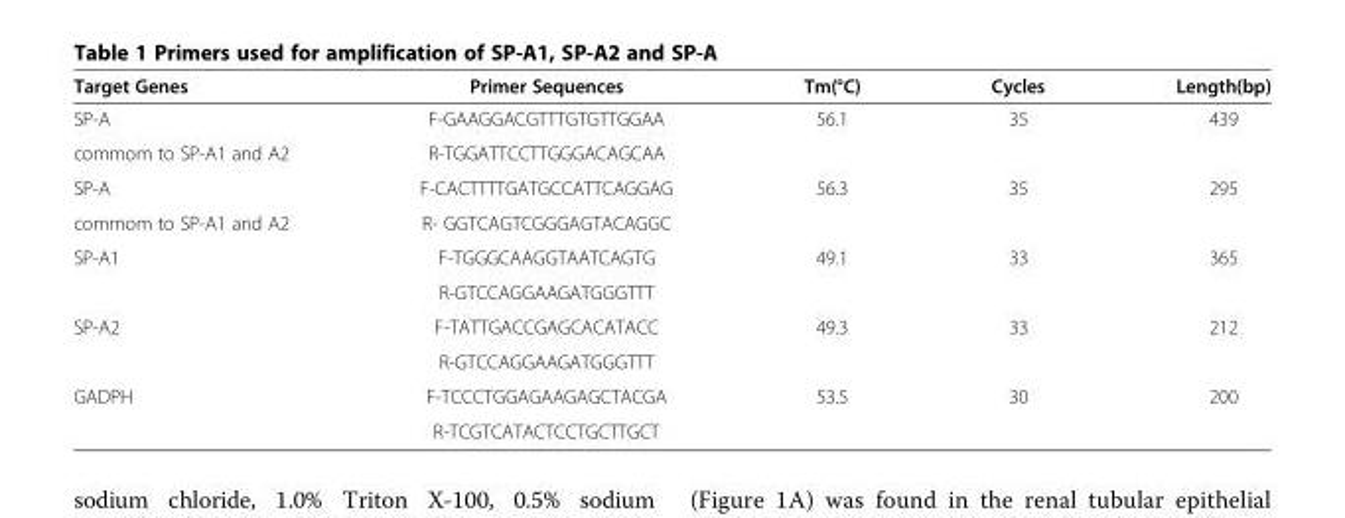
<table><thead><tr><td>Target Genes</td><td>Primer Sequences</td><td>Tm(°C)</td><td>Cycles</td><td>Length(bp)</td></tr></thead><tbody><tr><td>SP-A</td><td>F-GAAGGACGTTTGTGTTGGAA</td><td>56.1</td><td>35</td><td>439</td></tr><tr><td>commom to SP-A1 and A2</td><td>R-TGGATTCCTTGGGACAGCAA</td><td></td><td></td><td></td></tr><tr><td>SP-A</td><td>F-CACTTTTGATGCCATTCAGGAG</td><td>56.3</td><td>35</td><td>295</td></tr><tr><td>commom to SP-A1 and A2</td><td>R- GGTCAGTCGGGAGTACAGGC</td><td></td><td></td><td></td></tr><tr><td rowspan="2">SP-A1</td><td>F-TGGGCAAGGTAATCAGTG</td><td>49.1</td><td>33</td><td>365</td></tr><tr><td>R-GTCCAGGAAGATGGGTTT</td><td></td><td></td><td></td></tr><tr><td rowspan="2">SP-A2</td><td>F-TATTGACCGAGCACATACC</td><td>49.3</td><td>33</td><td>212</td></tr><tr><td>R-GTCCAGGAAGATGGGTTT</td><td></td><td></td><td></td></tr><tr><td rowspan="2">GADPH</td><td>F-TCCCTGGAGAAGAGCTACGA</td><td>53.5</td><td>30</td><td>200</td></tr><tr><td>R-TCGTCATACTCCTGCTTGCT</td><td></td><td></td><td></td></tr></tbody></table>